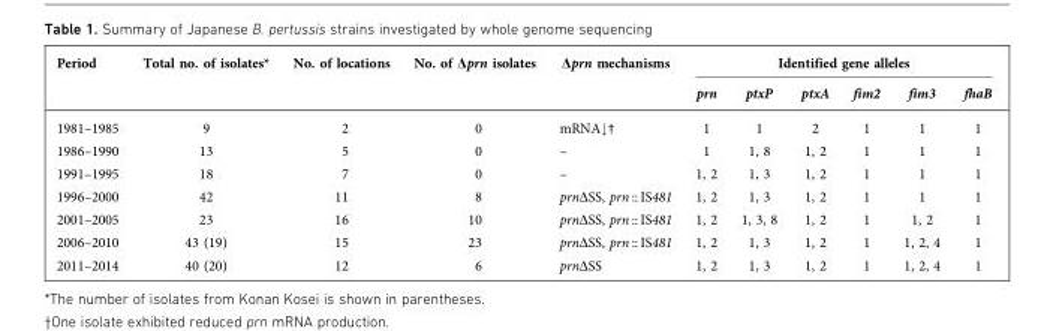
<table><thead><tr><td rowspan="2">Period</td><td rowspan="2">Total no. of isolates*</td><td rowspan="2">No. of locations</td><td rowspan="2">No. of ∆prn isolates</td><td rowspan="2">∆prn mechanisms</td><td colspan="6">Identified gene alleles</td></tr><tr><td>prn</td><td>ptxP</td><td>ptxA</td><td>fim2</td><td>fim3</td><td>fhaB</td></tr></thead><tbody><tr><td>1981–1985</td><td>9</td><td>2</td><td>0</td><td>mRNA↓†</td><td>1</td><td>1</td><td>2</td><td>1</td><td>1</td><td>1</td></tr><tr><td>1986–1990</td><td>13</td><td>5</td><td>0</td><td>–</td><td>1</td><td>1, 8</td><td>1, 2</td><td>1</td><td>1</td><td>1</td></tr><tr><td>1991–1995</td><td>18</td><td>7</td><td>0</td><td>–</td><td>1, 2</td><td>1, 3</td><td>1, 2</td><td>1</td><td>1</td><td>1</td></tr><tr><td>1996–2000</td><td>42</td><td>11</td><td>8</td><td>prn∆SS, prn :: IS481</td><td>1, 2</td><td>1, 3</td><td>1, 2</td><td>1</td><td>1</td><td>1</td></tr><tr><td>2001–2005</td><td>23</td><td>16</td><td>10</td><td>prn∆SS, prn :: IS481</td><td>1, 2</td><td>1, 3, 8</td><td>1, 2</td><td>1</td><td>1, 2</td><td>1</td></tr><tr><td>2006–2010</td><td>43 (19)</td><td>15</td><td>23</td><td>prn∆SS, prn :: IS481</td><td>1, 2</td><td>1, 3</td><td>1, 2</td><td>1</td><td>1, 2, 4</td><td>1</td></tr><tr><td>2011–2014</td><td>40 (20)</td><td>12</td><td>6</td><td>prn∆SS</td><td>1, 2</td><td>1, 3</td><td>1, 2</td><td>1</td><td>1, 2, 4</td><td>1</td></tr></tbody></table>